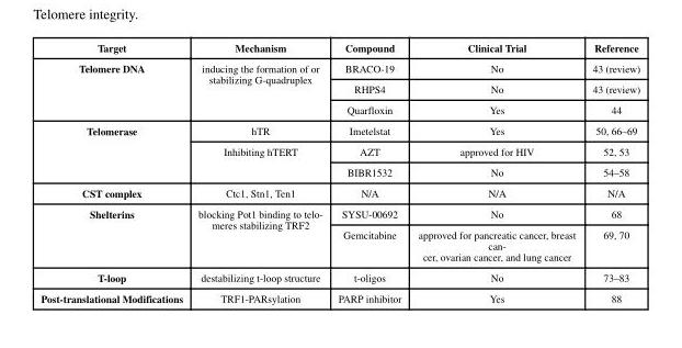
<table><thead><tr><td>Target</td><td>Mechanism</td><td>Compound</td><td>Clinical Trial</td><td>Reference</td></tr></thead><tbody><tr><td rowspan="3">Telomere DNA</td><td rowspan="3">inducing the formation of or stabilizing G-quadruplex</td><td>BRACO-19</td><td>No</td><td>43 (review)</td></tr><tr><td>RHPS4</td><td>No</td><td>43 (review)</td></tr><tr><td>Quarfloxin</td><td>Yes</td><td>44</td></tr><tr><td rowspan="3">Telomerase</td><td>hTR</td><td>Imetelstat</td><td>Yes</td><td>50, 66–69</td></tr><tr><td rowspan="2">Inhibiting hTERT</td><td>AZT</td><td>approved for HIV</td><td>52, 53</td></tr><tr><td>BIBR1532</td><td>No</td><td>54–58</td></tr><tr><td>CST complex</td><td>Ctc1, Stn1, Ten1</td><td>N/A</td><td>N/A</td><td>N/A</td></tr><tr><td rowspan="2">Shelterins</td><td rowspan="2">blocking Pot1 binding to telo- meres stabilizing TRF2</td><td>SYSU-00692</td><td>No</td><td>68</td></tr><tr><td>Gemcitabine</td><td>approved for pancreatic cancer, breast can- cer, ovarian cancer, and lung cancer</td><td>69, 70</td></tr><tr><td>T-loop</td><td>destabilizing t-loop structure</td><td>t-oligos</td><td>No</td><td>73–83</td></tr><tr><td>Post-translational Modifications</td><td>TRF1-PARsylation</td><td>PARP inhibitor</td><td>Yes</td><td>88</td></tr></tbody></table>